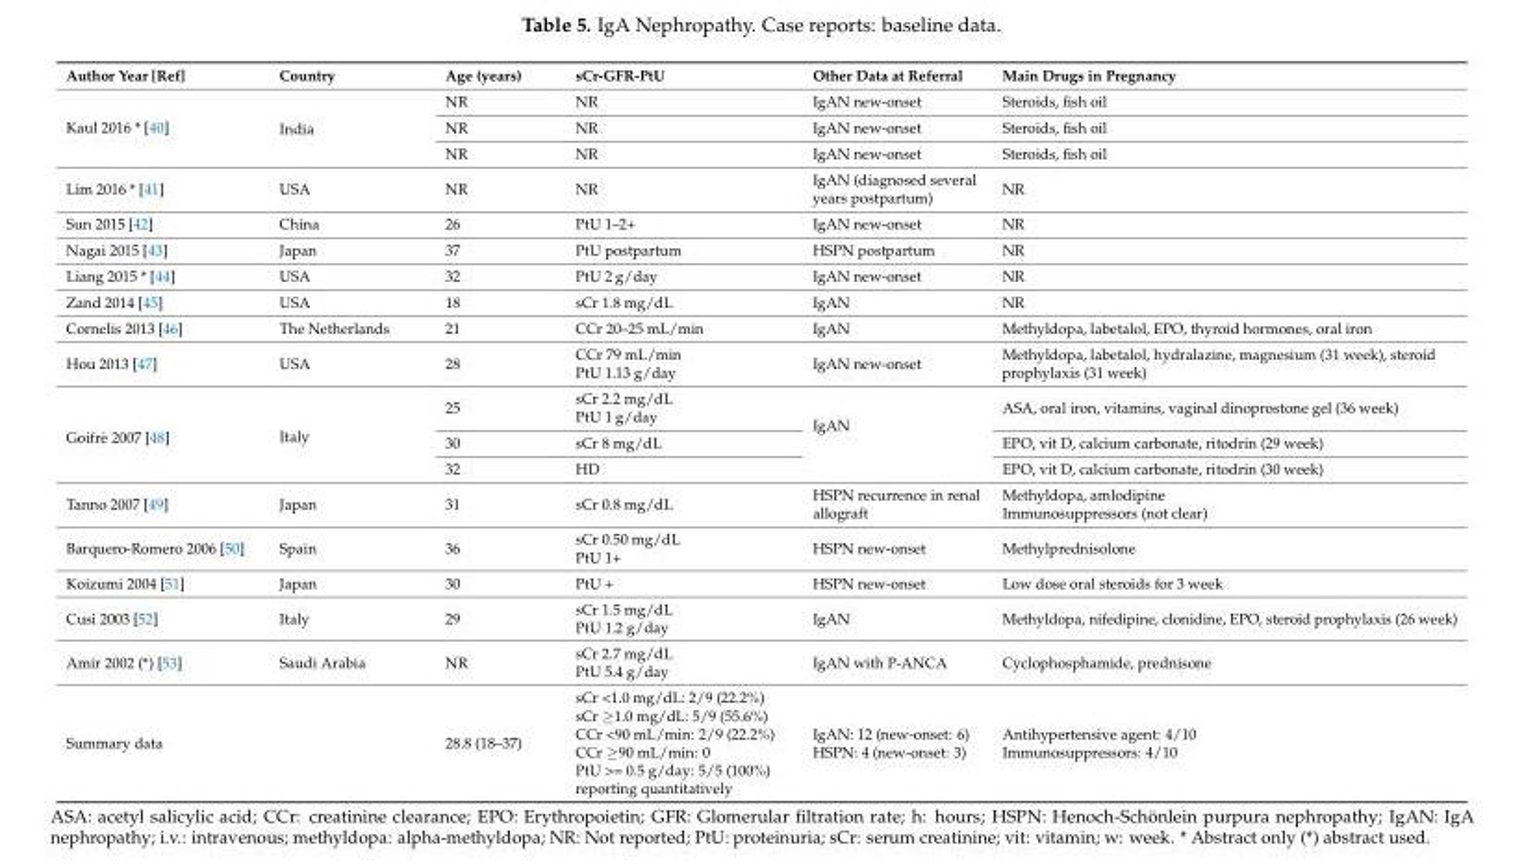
<table><thead><tr><td>Author Year [Ref]</td><td>Country</td><td>Age (years)</td><td>sCr-GFR-PtU</td><td>Other Data at Referral</td><td>Main Drugs in Pregnancy</td></tr></thead><tbody><tr><td rowspan="3">Kaul 2016 * [40]</td><td rowspan="3">India</td><td>NR</td><td>NR</td><td>IgAN new-onset</td><td>Steroids, fish oil</td></tr><tr><td>NR</td><td>NR</td><td>IgAN new-onset</td><td>Steroids, fish oil</td></tr><tr><td>NR</td><td>NR</td><td>IgAN new-onset</td><td>Steroids, fish oil</td></tr><tr><td>Lim 2016 * [41]</td><td>USA</td><td>NR</td><td>NR</td><td>IgAN (diagnosed several years postpartum)</td><td>NR</td></tr><tr><td>Sun 2015 [42]</td><td>China</td><td>26</td><td>PtU 1–2+</td><td>IgAN new-onset</td><td>NR</td></tr><tr><td>Nagai 2015 [43]</td><td>Japan</td><td>37</td><td>PtU postpartum</td><td>HSPN postpartum</td><td>NR</td></tr><tr><td>Liang 2015 * [44]</td><td>USA</td><td>32</td><td>PtU 2 g/day</td><td>IgAN new-onset</td><td>NR</td></tr><tr><td>Zand 2014 [45]</td><td>USA</td><td>18</td><td>sCr 1.8 mg/dL</td><td>IgAN</td><td>NR</td></tr><tr><td>Cornelis 2013 [46]</td><td>The Netherlands</td><td>21</td><td>CCr 20–25 mL/min</td><td>IgAN</td><td>Methyldopa, labetalol, EPO, thyroid hormones, oral iron</td></tr><tr><td>Hou 2013 [47]</td><td>USA</td><td>28</td><td>CCr 79 mL/min PtU 1.13 g/day</td><td>IgAN new-onset</td><td>Methyldopa, labetalol, hydralazine, magnesium (31 week), steroid prophylaxis (31 week)</td></tr><tr><td rowspan="3">Goifrè 2007 [48]</td><td rowspan="3">Italy</td><td>25</td><td>sCr 2.2 mg/dL PtU 1 g/day</td><td rowspan="3">IgAN</td><td>ASA, oral iron, vitamins, vaginal dinoprostone gel (36 week)</td></tr><tr><td>30</td><td>sCr 8 mg/dL</td><td>EPO, vit D, calcium carbonate, ritodrin (29 week)</td></tr><tr><td>32</td><td>HD</td><td>EPO, vit D, calcium carbonate, ritodrin (30 week)</td></tr><tr><td>Tanno 2007 [49]</td><td>Japan</td><td>31</td><td>sCr 0.8 mg/dL</td><td>HSPN recurrence in renal allograft</td><td>Methyldopa, amlodipine Immunosuppressors (not clear)</td></tr><tr><td>Barquero-Romero 2006 [50]</td><td>Spain</td><td>36</td><td>sCr 0.50 mg/dL PtU 1+</td><td>HSPN new-onset</td><td>Methylprednisolone</td></tr><tr><td>Koizumi 2004 [51]</td><td>Japan</td><td>30</td><td>PtU +</td><td>HSPN new-onset</td><td>Low dose oral steroids for 3 week</td></tr><tr><td>Cusi 2003 [52]</td><td>Italy</td><td>29</td><td>sCr 1.5 mg/dL PtU 1.2 g/day</td><td>IgAN</td><td>Methyldopa, nifedipine, clonidine, EPO, steroid prophylaxis (26 week)</td></tr><tr><td>Amir 2002 (*) [53]</td><td>Saudi Arabia</td><td>NR</td><td>sCr 2.7 mg/dL PtU 5.4 g/day</td><td>IgAN with P-ANCA</td><td>Cyclophosphamide, prednisone</td></tr><tr><td colspan="2">Summary data</td><td>28.8 (18–37)</td><td>sCr &lt;1.0 mg/dL: 2/9 (22.2%) sCr ≥1.0 mg/dL: 5/9 (55.6%) CCr &lt;90 mL/min: 2/9 (22.2%) CCr ≥90 mL/min: 0 PtU &gt;= 0.5 g/day: 5/5 (100%) reporting quantitatively</td><td>IgAN: 12 (new-onset: 6) HSPN: 4 (new-onset: 3)</td><td>Antihypertensive agent: 4/10 Immunosuppressors: 4/10</td></tr></tbody></table>